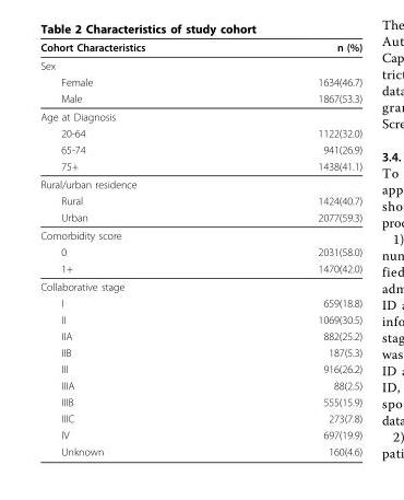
<table><thead><tr><td>Cohort Characteristics</td><td>n (%)</td></tr></thead><tbody><tr><td colspan="2">Sex</td></tr><tr><td>Female</td><td>1634(46.7)</td></tr><tr><td>Male</td><td>1867(53.3)</td></tr><tr><td colspan="2">Age at Diagnosis</td></tr><tr><td>20-64</td><td>1122(32.0)</td></tr><tr><td>65-74</td><td>941(26.9)</td></tr><tr><td>75+</td><td>1438(41.1)</td></tr><tr><td colspan="2">Rural/urban residence</td></tr><tr><td>Rural</td><td>1424(40.7)</td></tr><tr><td>Urban</td><td>2077(59.3)</td></tr><tr><td colspan="2">Comorbidity score</td></tr><tr><td>0</td><td>2031(58.0)</td></tr><tr><td>1+</td><td>1470(42.0)</td></tr><tr><td colspan="2">Collaborative stage</td></tr><tr><td>I</td><td>659(18.8)</td></tr><tr><td>II</td><td>1069(30.5)</td></tr><tr><td>IIA</td><td>882(25.2)</td></tr><tr><td>IIB</td><td>187(5.3)</td></tr><tr><td>III</td><td>916(26.2)</td></tr><tr><td>IIIA</td><td>88(2.5)</td></tr><tr><td>IIIB</td><td>555(15.9)</td></tr><tr><td>IIIC</td><td>273(7.8)</td></tr><tr><td>IV</td><td>697(19.9)</td></tr><tr><td>Unknown</td><td>160(4.6)</td></tr></tbody></table>